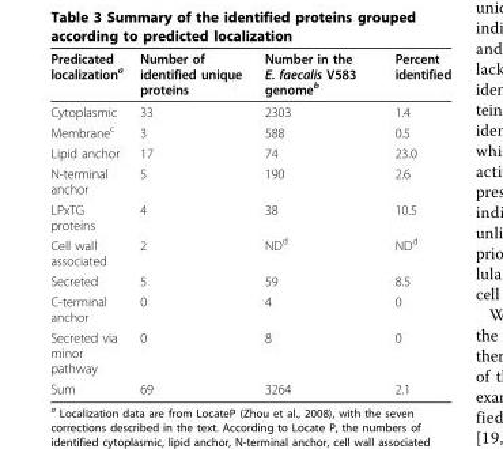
<table><thead><tr><td>Predicated localization<sup>a</sup></td><td>Number of identified unique proteins</td><td>Number in the E. faecalis V583 genome<sup>b</sup></td><td>Percent identified</td></tr></thead><tbody><tr><td>Cytoplasmic</td><td>33</td><td>2303</td><td>1.4</td></tr><tr><td>Membrane<sup>c</sup></td><td>3</td><td>588</td><td>0.5</td></tr><tr><td>Lipid anchor</td><td>17</td><td>74</td><td>23.0</td></tr><tr><td>N-terminal anchor</td><td>5</td><td>190</td><td>2.6</td></tr><tr><td>LPxTG proteins</td><td>4</td><td>38</td><td>10.5</td></tr><tr><td>Cell wall associated</td><td>2</td><td>ND<sup>d</sup></td><td>ND<sup>d</sup></td></tr><tr><td>Secreted</td><td>5</td><td>59</td><td>8.5</td></tr><tr><td>C-terminal anchor</td><td>0</td><td>4</td><td>0</td></tr><tr><td>Secreted via minor pathway</td><td>0</td><td>8</td><td>0</td></tr><tr><td>Sum</td><td>69</td><td>3264</td><td>2.1</td></tr></tbody></table>